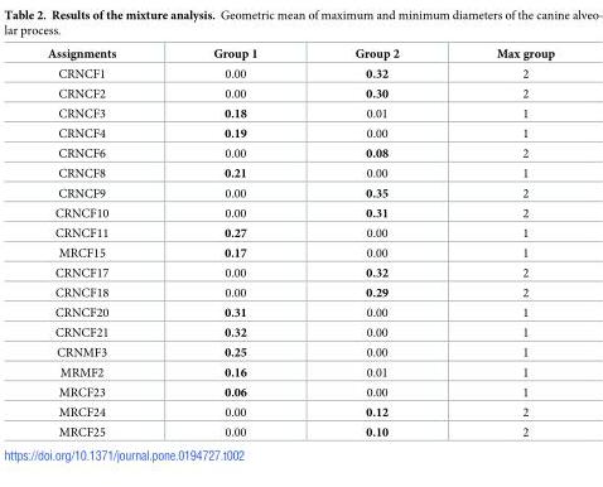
<table><thead><tr><td>Assignments</td><td>Group 1</td><td>Group 2</td><td>Max group</td></tr></thead><tbody><tr><td>CRNCF1</td><td>0.00</td><td>0.32</td><td>2</td></tr><tr><td>CRNCF2</td><td>0.00</td><td>0.30</td><td>2</td></tr><tr><td>CRNCF3</td><td>0.18</td><td>0.01</td><td>1</td></tr><tr><td>CRNCF4</td><td>0.19</td><td>0.00</td><td>1</td></tr><tr><td>CRNCF6</td><td>0.00</td><td>0.08</td><td>2</td></tr><tr><td>CRNCF8</td><td>0.21</td><td>0.00</td><td>1</td></tr><tr><td>CRNCF9</td><td>0.00</td><td>0.35</td><td>2</td></tr><tr><td>CRNCF10</td><td>0.00</td><td>0.31</td><td>2</td></tr><tr><td>CRNCF11</td><td>0.27</td><td>0.00</td><td>1</td></tr><tr><td>MRCF15</td><td>0.17</td><td>0.00</td><td>1</td></tr><tr><td>CRNCF17</td><td>0.00</td><td>0.32</td><td>2</td></tr><tr><td>CRNCF18</td><td>0.00</td><td>0.29</td><td>2</td></tr><tr><td>CRNCF20</td><td>0.31</td><td>0.00</td><td>1</td></tr><tr><td>CRNCF21</td><td>0.32</td><td>0.00</td><td>1</td></tr><tr><td>CRNMF3</td><td>0.25</td><td>0.00</td><td>1</td></tr><tr><td>MRMF2</td><td>0.16</td><td>0.01</td><td>1</td></tr><tr><td>MRCF23</td><td>0.06</td><td>0.00</td><td>1</td></tr><tr><td>MRCF24</td><td>0.00</td><td>0.12</td><td>2</td></tr><tr><td>MRCF25</td><td>0.00</td><td>0.10</td><td>2</td></tr></tbody></table>